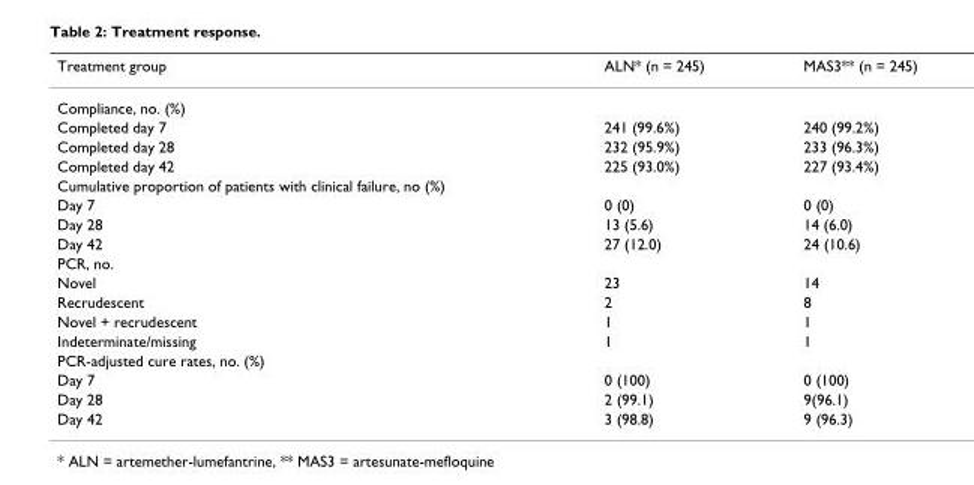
<table><thead><tr><td>Treatment group</td><td>ALN* (n = 245)</td><td>MAS3** (n = 245)</td></tr></thead><tbody><tr><td colspan="3">Compliance, no. (%)</td></tr><tr><td>Completed day 7</td><td>241 (99.6%)</td><td>240 (99.2%)</td></tr><tr><td>Completed day 28</td><td>232 (95.9%)</td><td>233 (96.3%)</td></tr><tr><td>Completed day 42</td><td>225 (93.0%)</td><td>227 (93.4%)</td></tr><tr><td colspan="3">Cumulative proportion of patients with clinical failure, no (%)</td></tr><tr><td>Day 7</td><td>0 (0)</td><td>0 (0)</td></tr><tr><td>Day 28</td><td>13 (5.6)</td><td>14 (6.0)</td></tr><tr><td>Day 42</td><td>27 (12.0)</td><td>24 (10.6)</td></tr><tr><td colspan="3">PCR, no.</td></tr><tr><td>Novel</td><td>23</td><td>14</td></tr><tr><td>Recrudescent</td><td>2</td><td>8</td></tr><tr><td>Novel + recrudescent</td><td>1</td><td>1</td></tr><tr><td>Indeterminate/missing</td><td>1</td><td>1</td></tr><tr><td colspan="3">PCR-adjusted cure rates, no. (%)</td></tr><tr><td>Day 7</td><td>0 (100)</td><td>0 (100)</td></tr><tr><td>Day 28</td><td>2 (99.1)</td><td>9(96.1)</td></tr><tr><td>Day 42</td><td>3 (98.8)</td><td>9 (96.3)</td></tr></tbody></table>